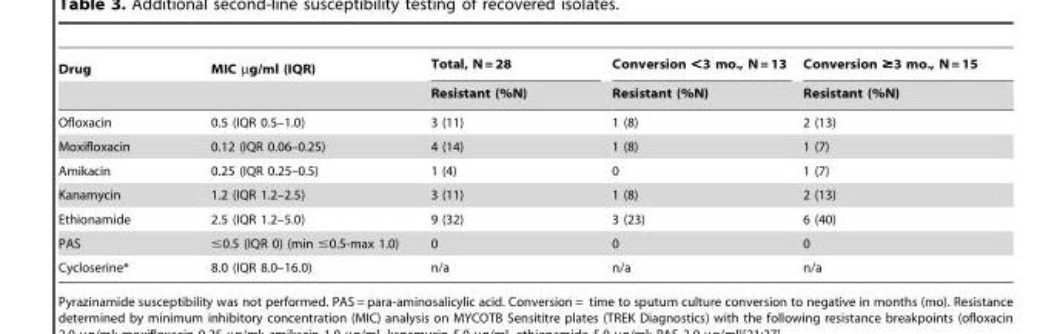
<table><thead><tr><td rowspan="2">Drug</td><td rowspan="2">MIC µg/ml (IQR)</td><td rowspan="2">Total, N = 28 Resistant (%N)</td><td rowspan="2">Conversion &lt;3 mo., N = 13 Resistant (%N)</td><td rowspan="2">Conversion ≥3 mo., N = 15 Resistant (%N)</td></tr><tr></tr></thead><tbody><tr><td>Ofloxacin</td><td>0.5 (IQR 0.5–1.0)</td><td>3 (11)</td><td>1 (8)</td><td>2 (13)</td></tr><tr><td>Moxifloxacin</td><td>0.12 (IQR 0.06–0.25)</td><td>4 (14)</td><td>1 (8)</td><td>1 (7)</td></tr><tr><td>Amikacin</td><td>0.25 (IQR 0.25–0.5)</td><td>1 (4)</td><td>0</td><td>1 (7)</td></tr><tr><td>Kanamycin</td><td>1.2 (IQR 1.2–2.5)</td><td>3 (11)</td><td>1 (8)</td><td>2 (13)</td></tr><tr><td>Ethionamide</td><td>2.5 (IQR 1.2–5.0)</td><td>9 (32)</td><td>3 (23)</td><td>6 (40)</td></tr><tr><td>PAS</td><td>≤0.5 (IQR 0) (min ≤0.5-max 1.0)</td><td>0</td><td>0</td><td>0</td></tr><tr><td>Cycloserine*</td><td>8.0 (IQR 8.0–16.0)</td><td>n/a</td><td>n/a</td><td>n/a</td></tr></tbody></table>